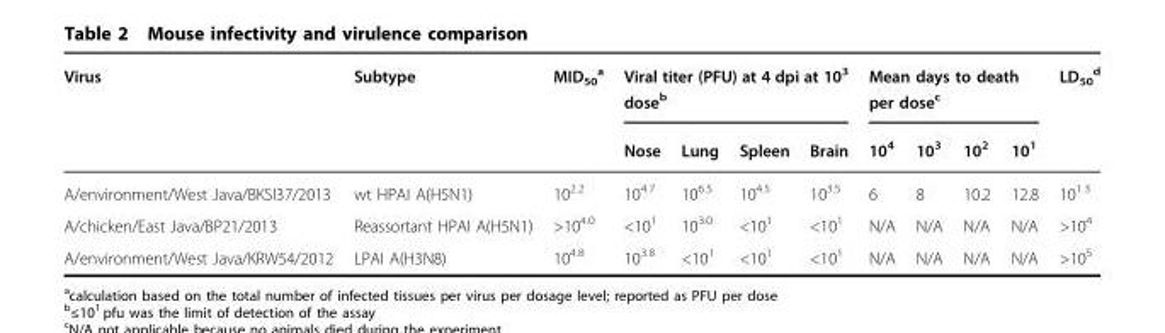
<table><thead><tr><td rowspan="2">Virus</td><td rowspan="2">Subtype</td><td rowspan="2">MID<sub>50</sub> <sup>a</sup></td><td colspan="4">Viral titer (PFU) at 4 dpi at 10<sup>3</sup> dose<sup>b</sup></td><td colspan="4">Mean days to death per dose<sup>c</sup></td><td rowspan="2">LD<sub>50</sub> <sup>d</sup></td></tr><tr><td>Nose</td><td>Lung</td><td>Spleen</td><td>Brain</td><td>10<sup>4</sup></td><td>10<sup>3</sup></td><td>10<sup>2</sup></td><td>10<sup>1</sup></td></tr></thead><tbody><tr><td>A/environment/West Java/BKSI37/2013</td><td>wt HPAI A(H5N1)</td><td>10<sup>2.2</sup></td><td>10<sup>4.7</sup></td><td>10<sup>6.5</sup></td><td>10<sup>4.5</sup></td><td>10<sup>3.5</sup></td><td>6</td><td>8</td><td>10.2</td><td>12.8</td><td>10<sup>1.3</sup></td></tr><tr><td>A/chicken/East Java/BP21/2013</td><td>Reassortant HPAI A(H5N1)</td><td>&gt;10<sup>4.0</sup></td><td>&lt;10<sup>1</sup></td><td>10<sup>3.0</sup></td><td>&lt;10<sup>1</sup></td><td>&lt;10<sup>1</sup></td><td>N/A</td><td>N/A</td><td>N/A</td><td>N/A</td><td>&gt;10<sup>4</sup></td></tr><tr><td>A/environment/West Java/KRW54/2012</td><td>LPAI A(H3N8)</td><td>10<sup>4.8</sup></td><td>10<sup>3.8</sup></td><td>&lt;10<sup>1</sup></td><td>&lt;10<sup>1</sup></td><td>&lt;10<sup>1</sup></td><td>N/A</td><td>N/A</td><td>N/A</td><td>N/A</td><td>&gt;10<sup>5</sup></td></tr></tbody></table>